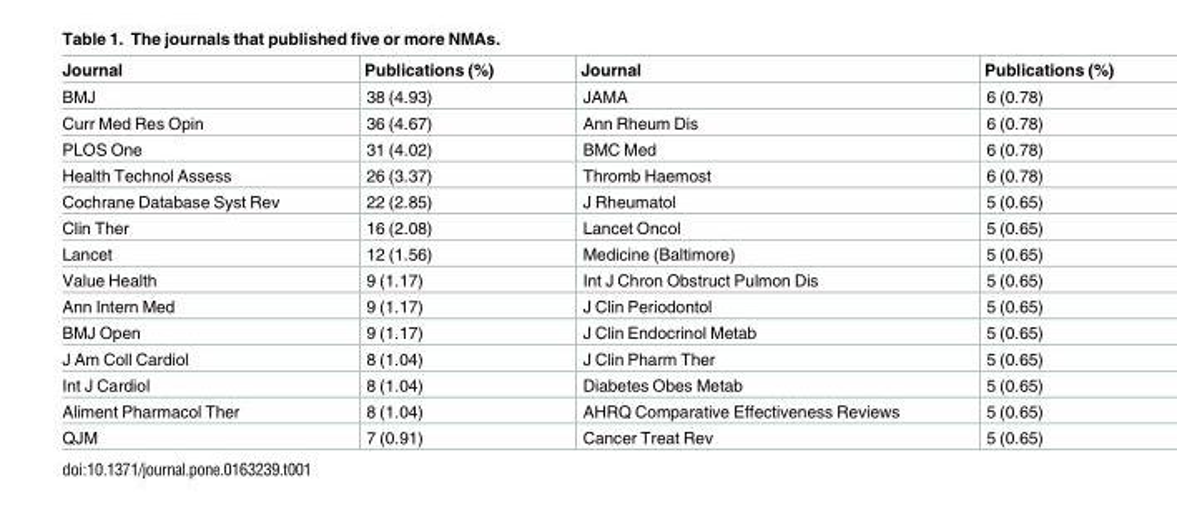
<table><thead><tr><td>Journal</td><td>Publications (%)</td><td>Journal</td><td>Publications (%)</td></tr></thead><tbody><tr><td>BMJ</td><td>38 (4.93)</td><td>JAMA</td><td>6 (0.78)</td></tr><tr><td>Curr Med Res Opin</td><td>36 (4.67)</td><td>Ann Rheum Dis</td><td>6 (0.78)</td></tr><tr><td>PLOS One</td><td>31 (4.02)</td><td>BMC Med</td><td>6 (0.78)</td></tr><tr><td>Health Technol Assess</td><td>26 (3.37)</td><td>Thromb Haemost</td><td>6 (0.78)</td></tr><tr><td>Cochrane Database Syst Rev</td><td>22 (2.85)</td><td>J Rheumatol</td><td>5 (0.65)</td></tr><tr><td>Clin Ther</td><td>16 (2.08)</td><td>Lancet Oncol</td><td>5 (0.65)</td></tr><tr><td>Lancet</td><td>12 (1.56)</td><td>Medicine (Baltimore)</td><td>5 (0.65)</td></tr><tr><td>Value Health</td><td>9 (1.17)</td><td>Int J Chron Obstruct Pulmon Dis</td><td>5 (0.65)</td></tr><tr><td>Ann Intern Med</td><td>9 (1.17)</td><td>J Clin Periodontol</td><td>5 (0.65)</td></tr><tr><td>BMJ Open</td><td>9 (1.17)</td><td>J Clin Endocrinol Metab</td><td>5 (0.65)</td></tr><tr><td>J Am Coll Cardiol</td><td>8 (1.04)</td><td>J Clin Pharm Ther</td><td>5 (0.65)</td></tr><tr><td>Int J Cardiol</td><td>8 (1.04)</td><td>Diabetes Obes Metab</td><td>5 (0.65)</td></tr><tr><td>Aliment Pharmacol Ther</td><td>8 (1.04)</td><td>AHRQ Comparative Effectiveness Reviews</td><td>5 (0.65)</td></tr><tr><td>QJM</td><td>7 (0.91)</td><td>Cancer Treat Rev</td><td>5 (0.65)</td></tr></tbody></table>